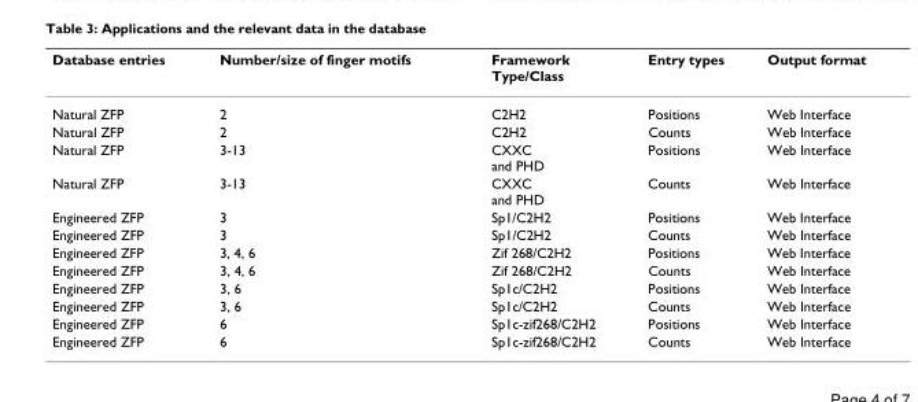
<table><thead><tr><td>Database entries</td><td>Number/size of finger motifs</td><td>Framework Type/Class</td><td>Entry types</td><td>Output format</td></tr></thead><tbody><tr><td>Natural ZFP</td><td>2</td><td>C2H2</td><td>Positions</td><td>Web Interface</td></tr><tr><td>Natural ZFP</td><td>2</td><td>C2H2</td><td>Counts</td><td>Web Interface</td></tr><tr><td>Natural ZFP</td><td>3-13</td><td>CXXC and PHD</td><td>Positions</td><td>Web Interface</td></tr><tr><td>Natural ZFP</td><td>3-13</td><td>CXXC and PHD</td><td>Counts</td><td>Web Interface</td></tr><tr><td>Engineered ZFP</td><td>3</td><td>Sp1/C2H2</td><td>Positions</td><td>Web Interface</td></tr><tr><td>Engineered ZFP</td><td>3</td><td>Sp1/C2H2</td><td>Counts</td><td>Web Interface</td></tr><tr><td>Engineered ZFP</td><td>3, 4, 6</td><td>Zif 268/C2H2</td><td>Positions</td><td>Web Interface</td></tr><tr><td>Engineered ZFP</td><td>3, 4, 6</td><td>Zif 268/C2H2</td><td>Counts</td><td>Web Interface</td></tr><tr><td>Engineered ZFP</td><td>3, 6</td><td>Sp1c/C2H2</td><td>Positions</td><td>Web Interface</td></tr><tr><td>Engineered ZFP</td><td>3, 6</td><td>Sp1c/C2H2</td><td>Counts</td><td>Web Interface</td></tr><tr><td>Engineered ZFP</td><td>6</td><td>Sp1c-zif268/C2H2</td><td>Positions</td><td>Web Interface</td></tr><tr><td>Engineered ZFP</td><td>6</td><td>Sp1c-zif268/C2H2</td><td>Counts</td><td>Web Interface</td></tr></tbody></table>